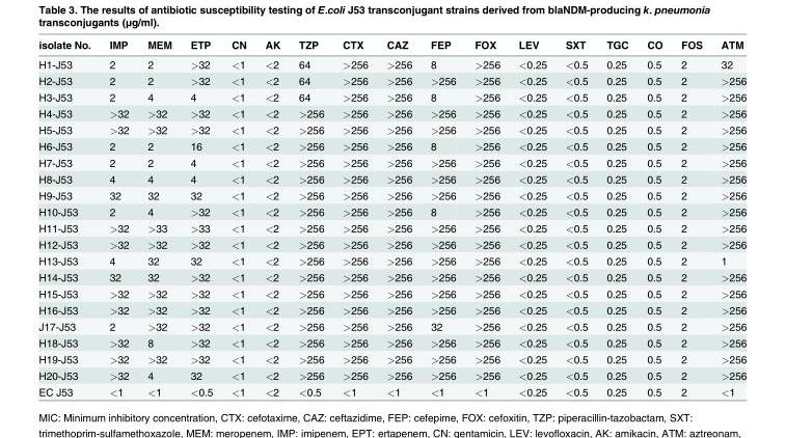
<table><thead><tr><td>isolate No.</td><td>IMP</td><td>MEM</td><td>ETP</td><td>CN</td><td>AK</td><td>TZP</td><td>CTX</td><td>CAZ</td><td>FEP</td><td>FOX</td><td>LEV</td><td>SXT</td><td>TGC</td><td>CO</td><td>FOS</td><td>ATM</td></tr></thead><tbody><tr><td>H1-J53</td><td>2</td><td>2</td><td>&gt;32</td><td>&lt;1</td><td>&lt;2</td><td>64</td><td>&gt;256</td><td>&gt;256</td><td>8</td><td>&gt;256</td><td>&lt;0.25</td><td>&lt;0.5</td><td>0.25</td><td>0.5</td><td>2</td><td>32</td></tr><tr><td>H2-J53</td><td>2</td><td>2</td><td>&gt;32</td><td>&lt;1</td><td>&lt;2</td><td>64</td><td>&gt;256</td><td>&gt;256</td><td>&gt;256</td><td>&gt;256</td><td>&lt;0.25</td><td>&lt;0.5</td><td>0.25</td><td>0.5</td><td>2</td><td>&gt;256</td></tr><tr><td>H3-J53</td><td>2</td><td>4</td><td>4</td><td>&lt;1</td><td>&lt;2</td><td>64</td><td>&gt;256</td><td>&gt;256</td><td>8</td><td>&gt;256</td><td>&lt;0.25</td><td>&lt;0.5</td><td>0.25</td><td>0.5</td><td>2</td><td>&gt;256</td></tr><tr><td>H4-J53</td><td>&gt;32</td><td>&gt;32</td><td>&gt;32</td><td>&lt;1</td><td>&lt;2</td><td>&gt;256</td><td>&gt;256</td><td>&gt;256</td><td>&gt;256</td><td>&gt;256</td><td>&lt;0.25</td><td>&lt;0.5</td><td>0.25</td><td>0.5</td><td>2</td><td>&gt;256</td></tr><tr><td>H5-J53</td><td>&gt;32</td><td>&gt;32</td><td>&gt;32</td><td>&lt;1</td><td>&lt;2</td><td>&gt;256</td><td>&gt;256</td><td>&gt;256</td><td>&gt;256</td><td>&gt;256</td><td>&lt;0.25</td><td>&lt;0.5</td><td>0.25</td><td>0.5</td><td>2</td><td>&gt;256</td></tr><tr><td>H6-J53</td><td>2</td><td>2</td><td>16</td><td>&lt;1</td><td>&lt;2</td><td>&gt;256</td><td>&gt;256</td><td>&gt;256</td><td>8</td><td>&gt;256</td><td>&lt;0.25</td><td>&lt;0.5</td><td>0.25</td><td>0.5</td><td>2</td><td>&gt;256</td></tr><tr><td>H7-J53</td><td>2</td><td>2</td><td>4</td><td>&lt;1</td><td>&lt;2</td><td>&gt;256</td><td>&gt;256</td><td>&gt;256</td><td>&gt;256</td><td>&gt;256</td><td>&lt;0.25</td><td>&lt;0.5</td><td>0.25</td><td>0.5</td><td>2</td><td>&gt;256</td></tr><tr><td>H8-J53</td><td>4</td><td>4</td><td>4</td><td>&lt;1</td><td>&lt;2</td><td>&gt;256</td><td>&gt;256</td><td>&gt;256</td><td>&gt;256</td><td>&gt;256</td><td>&lt;0.25</td><td>&lt;0.5</td><td>0.25</td><td>0.5</td><td>2</td><td>&gt;256</td></tr><tr><td>H9-J53</td><td>32</td><td>32</td><td>32</td><td>&lt;1</td><td>&lt;2</td><td>&gt;256</td><td>&gt;256</td><td>&gt;256</td><td>&gt;256</td><td>&gt;256</td><td>&lt;0.25</td><td>&lt;0.5</td><td>0.25</td><td>0.5</td><td>2</td><td>&gt;256</td></tr><tr><td>H10-J53</td><td>2</td><td>4</td><td>&gt;32</td><td>&lt;1</td><td>&lt;2</td><td>&gt;256</td><td>&gt;256</td><td>&gt;256</td><td>8</td><td>&gt;256</td><td>&lt;0.25</td><td>&lt;0.5</td><td>0.25</td><td>0.5</td><td>2</td><td>&gt;256</td></tr><tr><td>H11-J53</td><td>&gt;32</td><td>&gt;33</td><td>&gt;33</td><td>&lt;1</td><td>&lt;2</td><td>&gt;256</td><td>&gt;256</td><td>&gt;256</td><td>&gt;256</td><td>&gt;256</td><td>&lt;0.25</td><td>&lt;0.5</td><td>0.25</td><td>0.5</td><td>2</td><td>&gt;256</td></tr><tr><td>H12-J53</td><td>&gt;32</td><td>&gt;32</td><td>&gt;32</td><td>&lt;1</td><td>&lt;2</td><td>&gt;256</td><td>&gt;256</td><td>&gt;256</td><td>&gt;256</td><td>&gt;256</td><td>&lt;0.25</td><td>&lt;0.5</td><td>0.25</td><td>0.5</td><td>2</td><td>&gt;256</td></tr><tr><td>H13-J53</td><td>4</td><td>32</td><td>32</td><td>&lt;1</td><td>&lt;2</td><td>&gt;256</td><td>&gt;256</td><td>&gt;256</td><td>&gt;256</td><td>&gt;256</td><td>&lt;0.25</td><td>&lt;0.5</td><td>0.25</td><td>0.5</td><td>2</td><td>1</td></tr><tr><td>H14-J53</td><td>32</td><td>32</td><td>&gt;32</td><td>&lt;1</td><td>&lt;2</td><td>&gt;256</td><td>&gt;256</td><td>&gt;256</td><td>&gt;256</td><td>&gt;256</td><td>&lt;0.25</td><td>&lt;0.5</td><td>0.25</td><td>0.5</td><td>2</td><td>&gt;256</td></tr><tr><td>H15-J53</td><td>&gt;32</td><td>&gt;32</td><td>&gt;32</td><td>&lt;1</td><td>&lt;2</td><td>&gt;256</td><td>&gt;256</td><td>&gt;256</td><td>&gt;256</td><td>&gt;256</td><td>&lt;0.25</td><td>&lt;0.5</td><td>0.25</td><td>0.5</td><td>2</td><td>&gt;256</td></tr><tr><td>H16-J53</td><td>&gt;32</td><td>&gt;32</td><td>&gt;32</td><td>&lt;1</td><td>&lt;2</td><td>&gt;256</td><td>&gt;256</td><td>&gt;256</td><td>&gt;256</td><td>&gt;256</td><td>&lt;0.25</td><td>&lt;0.5</td><td>0.25</td><td>0.5</td><td>2</td><td>&gt;256</td></tr><tr><td>J17-J53</td><td>2</td><td>&gt;32</td><td>&gt;32</td><td>&lt;1</td><td>&lt;2</td><td>&gt;256</td><td>&gt;256</td><td>&gt;256</td><td>32</td><td>&gt;256</td><td>&lt;0.25</td><td>&lt;0.5</td><td>0.25</td><td>0.5</td><td>2</td><td>&gt;256</td></tr><tr><td>H18-J53</td><td>&gt;32</td><td>8</td><td>&gt;32</td><td>&lt;1</td><td>&lt;2</td><td>&gt;256</td><td>&gt;256</td><td>&gt;256</td><td>&gt;256</td><td>&gt;256</td><td>&lt;0.25</td><td>&lt;0.5</td><td>0.25</td><td>0.5</td><td>2</td><td>&gt;256</td></tr><tr><td>H19-J53</td><td>&gt;32</td><td>&gt;32</td><td>&gt;32</td><td>&lt;1</td><td>&lt;2</td><td>&gt;256</td><td>&gt;256</td><td>&gt;256</td><td>&gt;256</td><td>&gt;256</td><td>&lt;0.25</td><td>&lt;0.5</td><td>0.25</td><td>0.5</td><td>2</td><td>&gt;256</td></tr><tr><td>H20-J53</td><td>&gt;32</td><td>4</td><td>32</td><td>&lt;1</td><td>&lt;2</td><td>&gt;256</td><td>&gt;256</td><td>&gt;256</td><td>&gt;256</td><td>&gt;256</td><td>&lt;0.25</td><td>&lt;0.5</td><td>0.25</td><td>0.5</td><td>2</td><td>&gt;256</td></tr><tr><td>EC J53</td><td>&lt;1</td><td>&lt;1</td><td>&lt;0.5</td><td>&lt;1</td><td>&lt;2</td><td>&lt;0.5</td><td>&lt;1</td><td>&lt;1</td><td>&lt;1</td><td>&lt;1</td><td>&lt;0.25</td><td>&lt;0.5</td><td>0.25</td><td>0.5</td><td>2</td><td>&lt;1</td></tr></tbody></table>